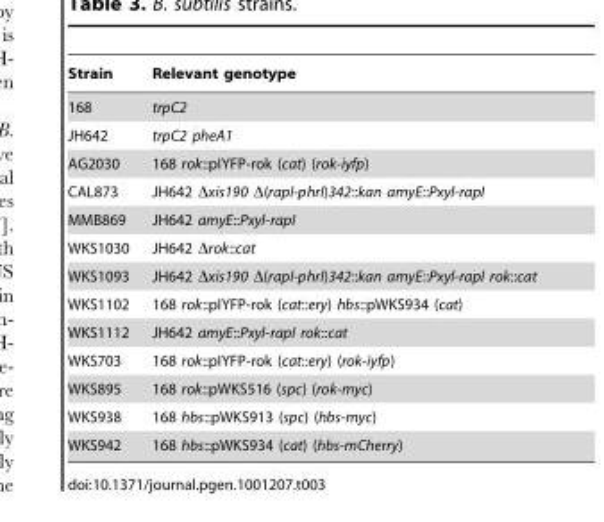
<table><thead><tr><td>Strain</td><td>Relevant genotype</td></tr></thead><tbody><tr><td>168</td><td>trpC2</td></tr><tr><td>JH642</td><td>trpC2 pheA1</td></tr><tr><td>AG2030</td><td>168 rok::pIYFP-rok (cat) (rok-iyfp)</td></tr><tr><td>CAL873</td><td>JH642 Δxis190 Δ(rapI-phrI)342::kan amyE::Pxyl-rapI</td></tr><tr><td>MMB869</td><td>JH642 amyE::Pxyl-rapI</td></tr><tr><td>WKS1030</td><td>JH642 Δrok::cat</td></tr><tr><td>WKS1093</td><td>JH642 Δxis190 Δ(rapI-phrI)342::kan amyE::Pxyl-rapI rok::cat</td></tr><tr><td>WKS1102</td><td>168 rok::pIYFP-rok (cat::ery) hbs::pWKS934 (cat)</td></tr><tr><td>WKS1112</td><td>JH642 amyE::Pxyl-rapI rok::cat</td></tr><tr><td>WKS703</td><td>168 rok::pIYFP-rok (cat::ery) (rok-iyfp)</td></tr><tr><td>WKS895</td><td>168 rok::pWKS516 (spc) (rok-myc)</td></tr><tr><td>WKS938</td><td>168 hbs::pWKS913 (spc) (hbs-myc)</td></tr><tr><td>WKS942</td><td>168 hbs::pWKS934 (cat) (hbs-mCherry)</td></tr></tbody></table>